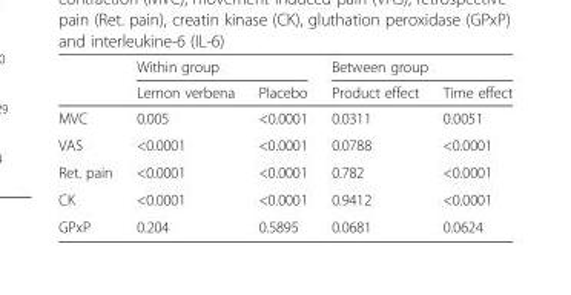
<table><thead><tr><td rowspan="2"></td><td colspan="2">Within group</td><td colspan="2">Between group</td></tr><tr><td>Lemon verbena</td><td>Placebo</td><td>Product effect</td><td>Time effect</td></tr></thead><tbody><tr><td>MVC</td><td>0.005</td><td>&lt;0.0001</td><td>0.0311</td><td>0.0051</td></tr><tr><td>VAS</td><td>&lt;0.0001</td><td>&lt;0.0001</td><td>0.0788</td><td>&lt;0.0001</td></tr><tr><td>Ret. pain</td><td>&lt;0.0001</td><td>&lt;0.0001</td><td>0.782</td><td>&lt;0.0001</td></tr><tr><td>CK</td><td>&lt;0.0001</td><td>&lt;0.0001</td><td>0.9412</td><td>&lt;0.0001</td></tr><tr><td>GPxP</td><td>0.204</td><td>0.5895</td><td>0.0681</td><td>0.0624</td></tr></tbody></table>